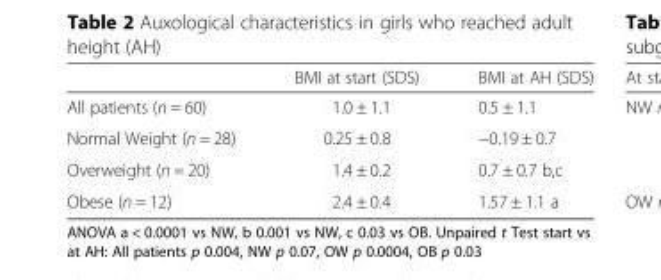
<table><thead><tr><td></td><td>BMI at start (SDS)</td><td>BMI at AH (SDS)</td></tr></thead><tbody><tr><td>All patients (n = 60)</td><td>1.0 ± 1.1</td><td>0.5 ± 1.1</td></tr><tr><td>Normal Weight (n = 28)</td><td>0.25 ± 0.8</td><td>−0.19 ± 0.7</td></tr><tr><td>Overweight (n = 20)</td><td>1.4 ± 0.2</td><td>0.7 ± 0.7 b,c</td></tr><tr><td>Obese (n = 12)</td><td>2.4 ± 0.4</td><td>1.57 ± 1.1 a</td></tr></tbody></table>